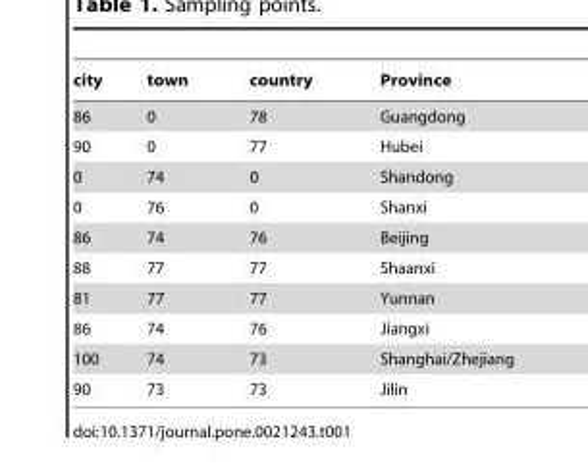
<table><thead><tr><td>city</td><td>town</td><td>country</td><td>Province</td></tr></thead><tbody><tr><td>86</td><td>0</td><td>78</td><td>Guangdong</td></tr><tr><td>90</td><td>0</td><td>77</td><td>Hubei</td></tr><tr><td>0</td><td>74</td><td>0</td><td>Shandong</td></tr><tr><td>0</td><td>76</td><td>0</td><td>Shanxi</td></tr><tr><td>86</td><td>74</td><td>76</td><td>Beijing</td></tr><tr><td>88</td><td>77</td><td>77</td><td>Shaanxi</td></tr><tr><td>81</td><td>77</td><td>77</td><td>Yunnan</td></tr><tr><td>86</td><td>74</td><td>76</td><td>Jiangxi</td></tr><tr><td>100</td><td>74</td><td>73</td><td>Shanghai/Zhejiang</td></tr><tr><td>90</td><td>73</td><td>73</td><td>Jilin</td></tr></tbody></table>